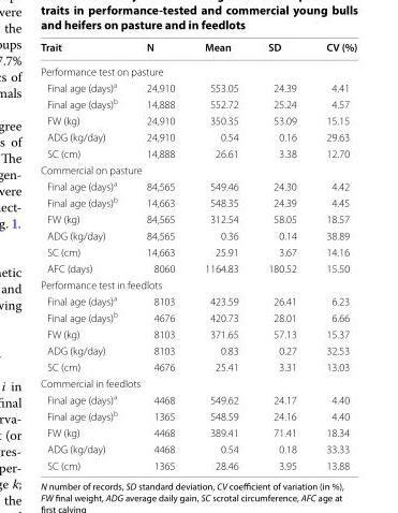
<table><thead><tr><td>Trait</td><td>N</td><td>Mean</td><td>SD</td><td>CV (%)</td></tr></thead><tbody><tr><td colspan="5">Performance test on pasture</td></tr><tr><td>Final age (days)<sup>a</sup></td><td>24,910</td><td>553.05</td><td>24.39</td><td>4.41</td></tr><tr><td>Final age (days)<sup>b</sup></td><td>14,888</td><td>552.72</td><td>25.24</td><td>4.57</td></tr><tr><td>FW (kg)</td><td>24,910</td><td>350.35</td><td>53.09</td><td>15.15</td></tr><tr><td>ADG (kg/day)</td><td>24,910</td><td>0.54</td><td>0.16</td><td>29.63</td></tr><tr><td>SC (cm)</td><td>14,888</td><td>26.61</td><td>3.38</td><td>12.70</td></tr><tr><td colspan="5">Commercial on pasture</td></tr><tr><td>Final age (days)<sup>a</sup></td><td>84,565</td><td>549.46</td><td>24.30</td><td>4.42</td></tr><tr><td>Final age (days)<sup>b</sup></td><td>14,663</td><td>548.35</td><td>24.39</td><td>4.45</td></tr><tr><td>FW (kg)</td><td>84,565</td><td>312.54</td><td>58.05</td><td>18.57</td></tr><tr><td>ADG (kg/day)</td><td>84,565</td><td>0.36</td><td>0.14</td><td>38.89</td></tr><tr><td>SC (cm)</td><td>14,663</td><td>25.91</td><td>3.67</td><td>14.16</td></tr><tr><td>AFC (days)</td><td>8060</td><td>1164.83</td><td>180.52</td><td>15.50</td></tr><tr><td colspan="5">Performance test in feedlots</td></tr><tr><td>Final age (days)<sup>a</sup></td><td>8103</td><td>423.59</td><td>26.41</td><td>6.23</td></tr><tr><td>Final age (days)<sup>b</sup></td><td>4676</td><td>420.73</td><td>28.01</td><td>6.66</td></tr><tr><td>FW (kg)</td><td>8103</td><td>371.65</td><td>57.13</td><td>15.37</td></tr><tr><td>ADG (kg/day)</td><td>8103</td><td>0.83</td><td>0.27</td><td>32.53</td></tr><tr><td>SC (cm)</td><td>4676</td><td>25.41</td><td>3.31</td><td>13.03</td></tr><tr><td colspan="5">Commercial in feedlots</td></tr><tr><td>Final age (days)<sup>a</sup></td><td>4468</td><td>549.62</td><td>24.17</td><td>4.40</td></tr><tr><td>Final age (days)<sup>b</sup></td><td>1365</td><td>548.59</td><td>24.16</td><td>4.40</td></tr><tr><td>FW (kg)</td><td>4468</td><td>389.41</td><td>71.41</td><td>18.34</td></tr><tr><td>ADG (kg/day)</td><td>4468</td><td>0.54</td><td>0.18</td><td>33.33</td></tr><tr><td>SC (cm)</td><td>1365</td><td>28.46</td><td>3.95</td><td>13.88</td></tr></tbody></table>